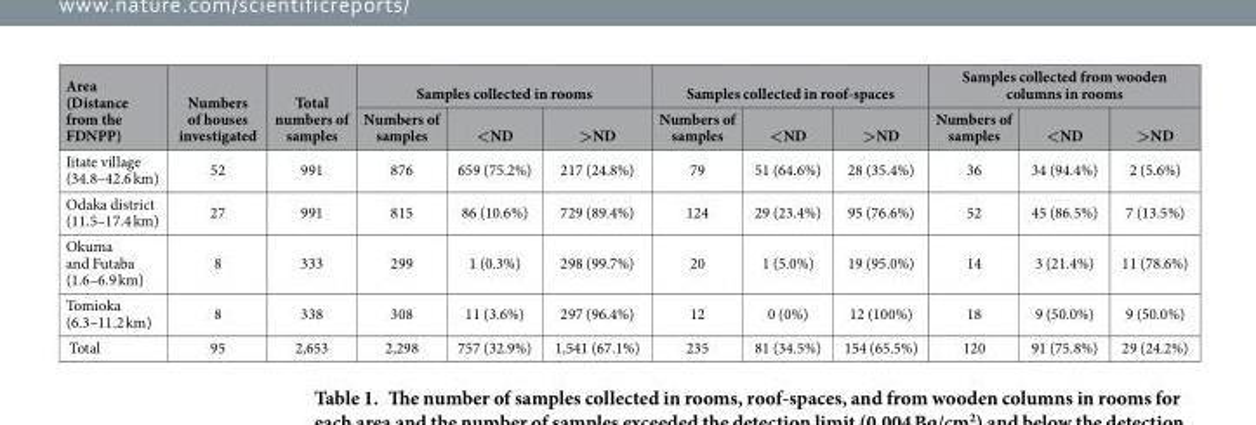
<table><thead><tr><td rowspan="2">Area (Distance from the FDNPP)</td><td rowspan="2">Numbers of houses investigated</td><td rowspan="2">Total numbers of samples</td><td colspan="3">Samples collected in rooms</td><td colspan="3">Samples collected in roof‐spaces</td><td colspan="3">Samples collected from wooden columns in rooms</td></tr><tr><td>Numbers of samples</td><td>&lt;ND</td><td>&gt;ND</td><td>Numbers of samples</td><td>&lt;ND</td><td>&gt;ND</td><td>Numbers of samples</td><td>&lt;ND</td><td>&gt;ND</td></tr></thead><tbody><tr><td>Iitate village (34.8–42.6 km)</td><td>52</td><td>991</td><td>876</td><td>659 (75.2%)</td><td>217 (24.8%)</td><td>79</td><td>51 (64.6%)</td><td>28 (35.4%)</td><td>36</td><td>34 (94.4%)</td><td>2 (5.6%)</td></tr><tr><td>Odaka district (11.5–17.4 km)</td><td>27</td><td>991</td><td>815</td><td>86 (10.6%)</td><td>729 (89.4%)</td><td>124</td><td>29 (23.4%)</td><td>95 (76.6%)</td><td>52</td><td>45 (86.5%)</td><td>7 (13.5%)</td></tr><tr><td>Okuma and Futaba (1.6–6.9 km)</td><td>8</td><td>333</td><td>299</td><td>1 (0.3%)</td><td>298 (99.7%)</td><td>20</td><td>1 (5.0%)</td><td>19 (95.0%)</td><td>14</td><td>3 (21.4%)</td><td>11 (78.6%)</td></tr><tr><td>Tomioka (6.3–11.2 km)</td><td>8</td><td>338</td><td>308</td><td>11 (3.6%)</td><td>297 (96.4%)</td><td>12</td><td>0 (0%)</td><td>12 (100%)</td><td>18</td><td>9 (50.0%)</td><td>9 (50.0%)</td></tr><tr><td>Total</td><td>95</td><td>2,653</td><td>2,298</td><td>757 (32.9%)</td><td>1,541 (67.1%)</td><td>235</td><td>81 (34.5%)</td><td>154 (65.5%)</td><td>120</td><td>91 (75.8%)</td><td>29 (24.2%)</td></tr></tbody></table>